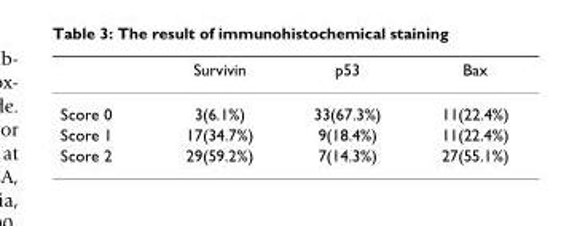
<table><thead><tr><td></td><td>Survivin</td><td>p53</td><td>Bax</td></tr></thead><tbody><tr><td>Score 0</td><td>3(6.1%)</td><td>33(67.3%)</td><td>11(22.4%)</td></tr><tr><td>Score 1</td><td>17(34.7%)</td><td>9(18.4%)</td><td>11(22.4%)</td></tr><tr><td>Score 2</td><td>29(59.2%)</td><td>7(14.3%)</td><td>27(55.1%)</td></tr></tbody></table>